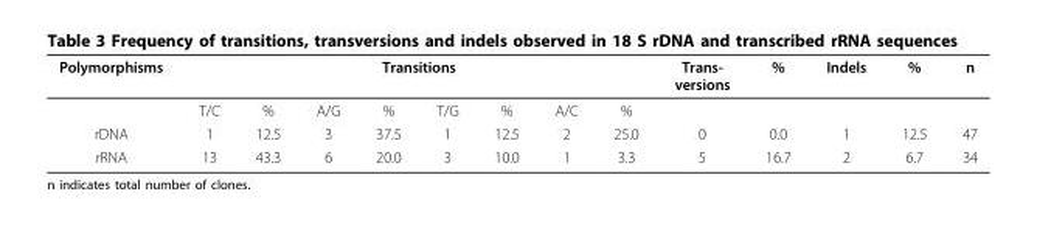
<table><thead><tr><td rowspan="2">Polymorphisms</td><td colspan="8">Transitions</td><td rowspan="2">Trans- versions</td><td rowspan="2">%</td><td rowspan="2">Indels</td><td rowspan="2">%</td><td rowspan="2">n</td></tr><tr><td>T/C</td><td>%</td><td>A/G</td><td>%</td><td>T/G</td><td>%</td><td>A/C</td><td>%</td></tr></thead><tbody><tr><td>rDNA</td><td>1</td><td>12.5</td><td>3</td><td>37.5</td><td>1</td><td>12.5</td><td>2</td><td>25.0</td><td>0</td><td>0.0</td><td>1</td><td>12.5</td><td>47</td></tr><tr><td>rRNA</td><td>13</td><td>43.3</td><td>6</td><td>20.0</td><td>3</td><td>10.0</td><td>1</td><td>3.3</td><td>5</td><td>16.7</td><td>2</td><td>6.7</td><td>34</td></tr></tbody></table>